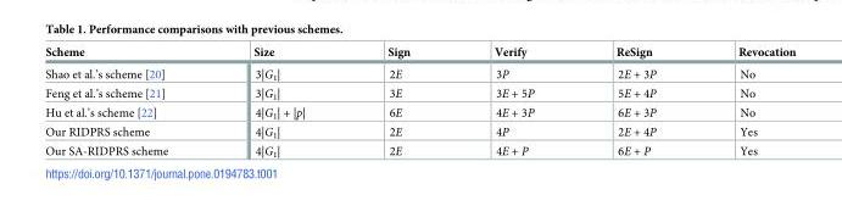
<table><thead><tr><td>Scheme</td><td>Size</td><td>Sign</td><td>Verify</td><td>ReSign</td><td>Revocation</td></tr></thead><tbody><tr><td>Shao et al.’s scheme [20]</td><td>3|G<sub>1</sub>|</td><td>2E</td><td>3P</td><td>2E + 3P</td><td>No</td></tr><tr><td>Feng et al.’s scheme [21]</td><td>3|G<sub>1</sub>|</td><td>3E</td><td>3E + 5P</td><td>5E + 4P</td><td>No</td></tr><tr><td>Hu et al.’s scheme [22]</td><td>4|G<sub>1</sub>| + |p|</td><td>6E</td><td>4E + 3P</td><td>6E + 3P</td><td>No</td></tr><tr><td>Our RIDPRS scheme</td><td>4|G<sub>1</sub>|</td><td>2E</td><td>4P</td><td>2E + 4P</td><td>Yes</td></tr><tr><td>Our SA-RIDPRS scheme</td><td>4|G<sub>1</sub>|</td><td>2E</td><td>4E + P</td><td>6E + P</td><td>Yes</td></tr></tbody></table>